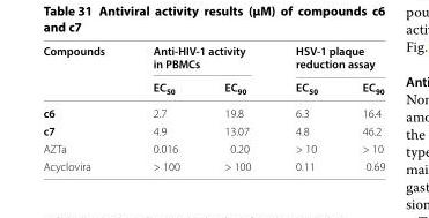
<table><thead><tr><td rowspan="2">Compounds</td><td colspan="2">Anti-HIV-1 activity in PBMCs</td><td colspan="2">HSV-1 plaque reduction assay</td></tr><tr><td>EC<sub>50</sub></td><td>EC<sub>90</sub></td><td>EC<sub>50</sub></td><td>EC<sub>90</sub></td></tr></thead><tbody><tr><td>c6</td><td>2.7</td><td>19.8</td><td>6.3</td><td>16.4</td></tr><tr><td>c7</td><td>4.9</td><td>13.07</td><td>4.8</td><td>46.2</td></tr><tr><td>AZTa</td><td>0.016</td><td>0.20</td><td>&gt; 10</td><td>&gt; 10</td></tr><tr><td>Acyclovira</td><td>&gt; 100</td><td>&gt; 100</td><td>0.11</td><td>0.69</td></tr></tbody></table>